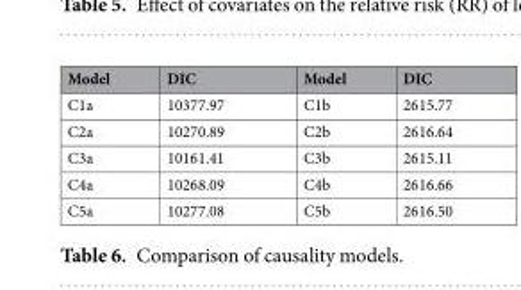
<table><thead><tr><td>Model</td><td>DIC</td><td>Model</td><td>DIC</td></tr></thead><tbody><tr><td>C1a</td><td>10377.97</td><td>C1b</td><td>2615.77</td></tr><tr><td>C2a</td><td>10270.89</td><td>C2b</td><td>2616.64</td></tr><tr><td>C3a</td><td>10161.41</td><td>C3b</td><td>2615.11</td></tr><tr><td>C4a</td><td>10268.09</td><td>C4b</td><td>2616.66</td></tr><tr><td>C5a</td><td>10277.08</td><td>C5b</td><td>2616.50</td></tr></tbody></table>